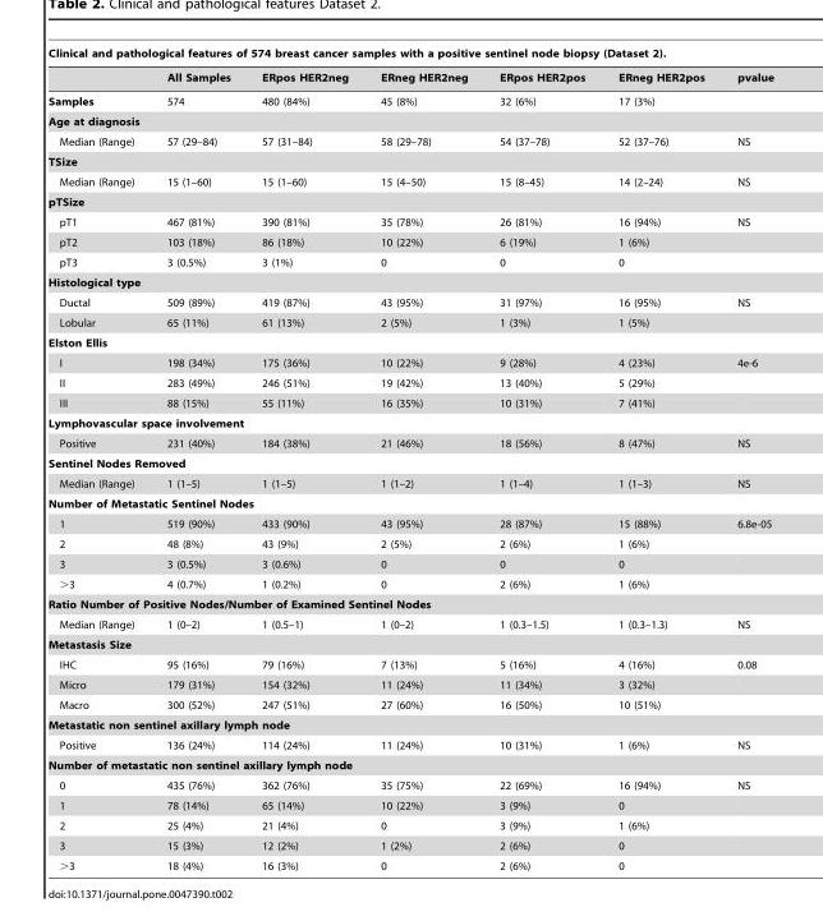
<table><thead><tr><td colspan="7">Clinical and pathological features of 574 breast cancer samples with a positive sentinel node biopsy (Dataset 2).</td></tr><tr><td></td><td>All Samples</td><td>ERpos HER2neg</td><td>ERneg HER2neg</td><td>ERpos HER2pos</td><td>ERneg HER2pos</td><td>pvalue</td></tr></thead><tbody><tr><td>Samples</td><td>574</td><td>480 (84%)</td><td>45 (8%)</td><td>32 (6%)</td><td>17 (3%)</td><td></td></tr><tr><td colspan="7">Age at diagnosis</td></tr><tr><td>Median (Range)</td><td>57 (29–84)</td><td>57 (31–84)</td><td>58 (29–78)</td><td>54 (37–78)</td><td>52 (37–76)</td><td>NS</td></tr><tr><td colspan="7">TSize</td></tr><tr><td>Median (Range)</td><td>15 (1–60)</td><td>15 (1–60)</td><td>15 (4–50)</td><td>15 (8–45)</td><td>14 (2–24)</td><td>NS</td></tr><tr><td colspan="7">pTSize</td></tr><tr><td>pT1</td><td>467 (81%)</td><td>390 (81%)</td><td>35 (78%)</td><td>26 (81%)</td><td>16 (94%)</td><td>NS</td></tr><tr><td>pT2</td><td>103 (18%)</td><td>86 (18%)</td><td>10 (22%)</td><td>6 (19%)</td><td>1 (6%)</td><td></td></tr><tr><td>pT3</td><td>3 (0.5%)</td><td>3 (1%)</td><td>0</td><td>0</td><td>0</td><td></td></tr><tr><td colspan="7">Histological type</td></tr><tr><td>Ductal</td><td>509 (89%)</td><td>419 (87%)</td><td>43 (95%)</td><td>31 (97%)</td><td>16 (95%)</td><td>NS</td></tr><tr><td>Lobular</td><td>65 (11%)</td><td>61 (13%)</td><td>2 (5%)</td><td>1 (3%)</td><td>1 (5%)</td><td></td></tr><tr><td colspan="7">Elston Ellis</td></tr><tr><td>I</td><td>198 (34%)</td><td>175 (36%)</td><td>10 (22%)</td><td>9 (28%)</td><td>4 (23%)</td><td>4e-6</td></tr><tr><td>II</td><td>283 (49%)</td><td>246 (51%)</td><td>19 (42%)</td><td>13 (40%)</td><td>5 (29%)</td><td></td></tr><tr><td>III</td><td>88 (15%)</td><td>55 (11%)</td><td>16 (35%)</td><td>10 (31%)</td><td>7 (41%)</td><td></td></tr><tr><td colspan="7">Lymphovascular space involvement</td></tr><tr><td>Positive</td><td>231 (40%)</td><td>184 (38%)</td><td>21 (46%)</td><td>18 (56%)</td><td>8 (47%)</td><td>NS</td></tr><tr><td colspan="7">Sentinel Nodes Removed</td></tr><tr><td>Median (Range)</td><td>1 (1–5)</td><td>1 (1–5)</td><td>1 (1–2)</td><td>1 (1–4)</td><td>1 (1–3)</td><td>NS</td></tr><tr><td colspan="7">Number of Metastatic Sentinel Nodes</td></tr><tr><td>1</td><td>519 (90%)</td><td>433 (90%)</td><td>43 (95%)</td><td>28 (87%)</td><td>15 (88%)</td><td>6.8e-05</td></tr><tr><td>2</td><td>48 (8%)</td><td>43 (9%)</td><td>2 (5%)</td><td>2 (6%)</td><td>1 (6%)</td><td></td></tr><tr><td>3</td><td>3 (0.5%)</td><td>3 (0.6%)</td><td>0</td><td>0</td><td>0</td><td></td></tr><tr><td>&gt;3</td><td>4 (0.7%)</td><td>1 (0.2%)</td><td>0</td><td>2 (6%)</td><td>1 (6%)</td><td></td></tr><tr><td colspan="7">Ratio Number of Positive Nodes/Number of Examined Sentinel Nodes</td></tr><tr><td>Median (Range)</td><td>1 (0–2)</td><td>1 (0.5–1)</td><td>1 (0–2)</td><td>1 (0.3–1.5)</td><td>1 (0.3–1.3)</td><td>NS</td></tr><tr><td colspan="7">Metastasis Size</td></tr><tr><td>IHC</td><td>95 (16%)</td><td>79 (16%)</td><td>7 (13%)</td><td>5 (16%)</td><td>4 (16%)</td><td>0.08</td></tr><tr><td>Micro</td><td>179 (31%)</td><td>154 (32%)</td><td>11 (24%)</td><td>11 (34%)</td><td>3 (32%)</td><td></td></tr><tr><td>Macro</td><td>300 (52%)</td><td>247 (51%)</td><td>27 (60%)</td><td>16 (50%)</td><td>10 (51%)</td><td></td></tr><tr><td colspan="7">Metastatic non sentinel axillary lymph node</td></tr><tr><td>Positive</td><td>136 (24%)</td><td>114 (24%)</td><td>11 (24%)</td><td>10 (31%)</td><td>1 (6%)</td><td>NS</td></tr><tr><td colspan="7">Number of metastatic non sentinel axillary lymph node</td></tr><tr><td>0</td><td>435 (76%)</td><td>362 (76%)</td><td>35 (75%)</td><td>22 (69%)</td><td>16 (94%)</td><td>NS</td></tr><tr><td>1</td><td>78 (14%)</td><td>65 (14%)</td><td>10 (22%)</td><td>3 (9%)</td><td>0</td><td></td></tr><tr><td>2</td><td>25 (4%)</td><td>21 (4%)</td><td>0</td><td>3 (9%)</td><td>1 (6%)</td><td></td></tr><tr><td>3</td><td>15 (3%)</td><td>12 (2%)</td><td>1 (2%)</td><td>2 (6%)</td><td>0</td><td></td></tr><tr><td>&gt;3</td><td>18 (4%)</td><td>16 (3%)</td><td>0</td><td>2 (6%)</td><td>0</td><td></td></tr></tbody></table>